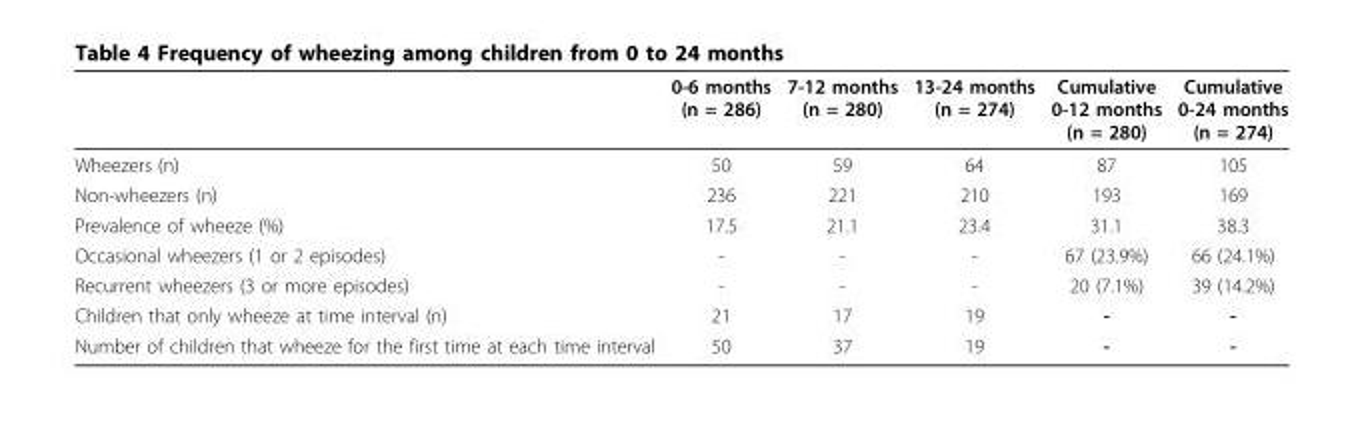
<table><thead><tr><td></td><td>0-6 months (n = 286)</td><td>7-12 months (n = 280)</td><td>13-24 months (n = 274)</td><td>Cumulative 0-12 months (n = 280)</td><td>Cumulative 0-24 months (n = 274)</td></tr></thead><tbody><tr><td>Wheezers (n)</td><td>50</td><td>59</td><td>64</td><td>87</td><td>105</td></tr><tr><td>Non-wheezers (n)</td><td>236</td><td>221</td><td>210</td><td>193</td><td>169</td></tr><tr><td>Prevalence of wheeze (%)</td><td>17.5</td><td>21.1</td><td>23.4</td><td>31.1</td><td>38.3</td></tr><tr><td>Occasional wheezers (1 or 2 episodes)</td><td>-</td><td>-</td><td>-</td><td>67 (23.9%)</td><td>66 (24.1%)</td></tr><tr><td>Recurrent wheezers (3 or more episodes)</td><td>-</td><td>-</td><td>-</td><td>20 (7.1%)</td><td>39 (14.2%)</td></tr><tr><td>Children that only wheeze at time interval (n)</td><td>21</td><td>17</td><td>19</td><td>-</td><td>-</td></tr><tr><td>Number of children that wheeze for the first time at each time interval</td><td>50</td><td>37</td><td>19</td><td>-</td><td>-</td></tr></tbody></table>